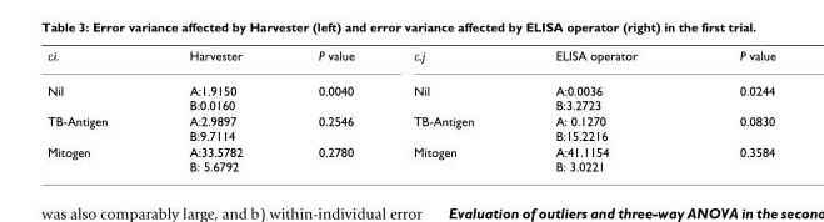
<table><tbody><tr><td>εi.</td><td>Harvester</td><td>P value</td><td>ε.j</td><td>ELISA operator</td><td>P value</td></tr><tr><td>Nil</td><td>A:1.9150 B:0.0160</td><td>0.0040</td><td>Nil</td><td>A:0.0036 B:3.2723</td><td>0.0244</td></tr><tr><td>TB-Antigen</td><td>A:2.9897 B:9.7114</td><td>0.2546</td><td>TB-Antigen</td><td>A: 0.1270 B:15.2216</td><td>0.0830</td></tr><tr><td>Mitogen</td><td>A:33.5782 B: 5.6792</td><td>0.2780</td><td>Mitogen</td><td>A:41.1154 B: 3.0221</td><td>0.3584</td></tr></tbody></table>